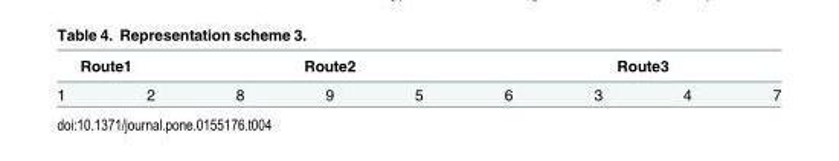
<table><thead><tr><td colspan="2">Route1</td><td colspan="3">Route2</td><td colspan="4">Route3</td></tr><tr><td>1</td><td>2</td><td>8</td><td>9</td><td>5</td><td>6</td><td>3</td><td>4</td><td>7</td></tr></thead><tbody></tbody></table>